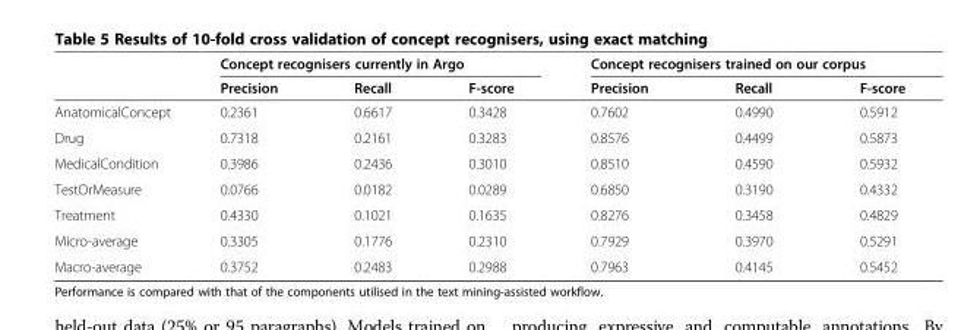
<table><thead><tr><td rowspan="2"></td><td colspan="3">Concept recognisers currently in Argo</td><td colspan="3">Concept recognisers trained on our corpus</td></tr><tr><td>Precision</td><td>Recall</td><td>F-score</td><td>Precision</td><td>Recall</td><td>F-score</td></tr></thead><tbody><tr><td>AnatomicalConcept</td><td>0.2361</td><td>0.6617</td><td>0.3428</td><td>0.7602</td><td>0.4990</td><td>0.5912</td></tr><tr><td>Drug</td><td>0.7318</td><td>0.2161</td><td>0.3283</td><td>0.8576</td><td>0.4499</td><td>0.5873</td></tr><tr><td>MedicalCondition</td><td>0.3986</td><td>0.2436</td><td>0.3010</td><td>0.8510</td><td>0.4590</td><td>0.5932</td></tr><tr><td>TestOrMeasure</td><td>0.0766</td><td>0.0182</td><td>0.0289</td><td>0.6850</td><td>0.3190</td><td>0.4332</td></tr><tr><td>Treatment</td><td>0.4330</td><td>0.1021</td><td>0.1635</td><td>0.8276</td><td>0.3458</td><td>0.4829</td></tr><tr><td>Micro-average</td><td>0.3305</td><td>0.1776</td><td>0.2310</td><td>0.7929</td><td>0.3970</td><td>0.5291</td></tr><tr><td>Macro-average</td><td>0.3752</td><td>0.2483</td><td>0.2988</td><td>0.7963</td><td>0.4145</td><td>0.5452</td></tr></tbody></table>